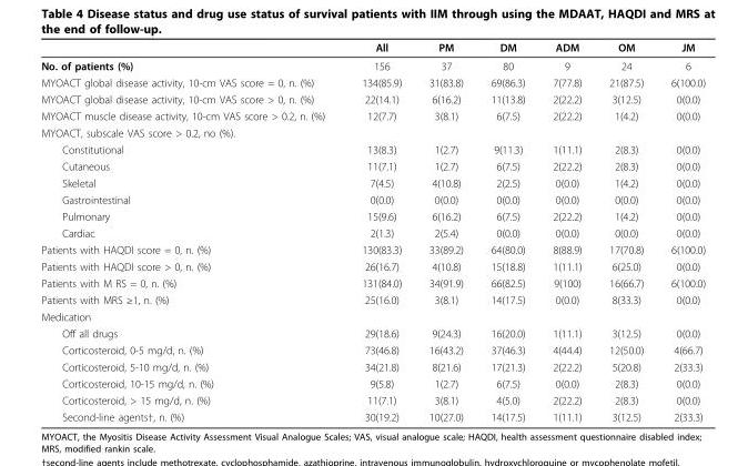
<table><thead><tr><td></td><td>All</td><td>PM</td><td>DM</td><td>ADM</td><td>OM</td><td>JM</td></tr></thead><tbody><tr><td>No. of patients (%)</td><td>156</td><td>37</td><td>80</td><td>9</td><td>24</td><td>6</td></tr><tr><td>MYOACT global disease activity, 10-cm VAS score = 0, n. (%)</td><td>134(85.9)</td><td>31(83.8)</td><td>69(86.3)</td><td>7(77.8)</td><td>21(87.5)</td><td>6(100.0)</td></tr><tr><td>MYOACT global disease activity, 10-cm VAS score &gt; 0, n. (%)</td><td>22(14.1)</td><td>6(16.2)</td><td>11(13.8)</td><td>2(22.2)</td><td>3(12.5)</td><td>0(0.0)</td></tr><tr><td>MYOACT muscle disease activity, 10-cm VAS score &gt; 0.2, n. (%)</td><td>12(7.7)</td><td>3(8.1)</td><td>6(7.5)</td><td>2(22.2)</td><td>1(4.2)</td><td>0(0.0)</td></tr><tr><td colspan="7">MYOACT, subscale VAS score &gt; 0.2, no (%).</td></tr><tr><td>Constitutional</td><td>13(8.3)</td><td>1(2.7)</td><td>9(11.3)</td><td>1(11.1)</td><td>2(8.3)</td><td>0(0.0)</td></tr><tr><td>Cutaneous</td><td>11(7.1)</td><td>1(2.7)</td><td>6(7.5)</td><td>2(22.2)</td><td>2(8.3)</td><td>0(0.0)</td></tr><tr><td>Skeletal</td><td>7(4.5)</td><td>4(10.8)</td><td>2(2.5)</td><td>0(0.0)</td><td>1(4.2)</td><td>0(0.0)</td></tr><tr><td>Gastrointestinal</td><td>0(0.0)</td><td>0(0.0)</td><td>0(0.0)</td><td>0(0.0)</td><td>0(0.0)</td><td>0(0.0)</td></tr><tr><td>Pulmonary</td><td>15(9.6)</td><td>6(16.2)</td><td>6(7.5)</td><td>2(22.2)</td><td>1(4.2)</td><td>0(0.0)</td></tr><tr><td>Cardiac</td><td>2(1.3)</td><td>2(5.4)</td><td>0(0.0)</td><td>0(0.0)</td><td>0(0.0)</td><td>0(0.0)</td></tr><tr><td>Patients with HAQDI score = 0, n. (%)</td><td>130(83.3)</td><td>33(89.2)</td><td>64(80.0)</td><td>8(88.9)</td><td>17(70.8)</td><td>6(100.0)</td></tr><tr><td>Patients with HAQDI score &gt; 0, n. (%)</td><td>26(16.7)</td><td>4(10.8)</td><td>15(18.8)</td><td>1(11.1)</td><td>6(25.0)</td><td>0(0.0)</td></tr><tr><td>Patients with M RS = 0, n. (%)</td><td>131(84.0)</td><td>34(91.9)</td><td>66(82.5)</td><td>9(100)</td><td>16(66.7)</td><td>6(100.0)</td></tr><tr><td>Patients with MRS ≥1, n. (%)</td><td>25(16.0)</td><td>3(8.1)</td><td>14(17.5)</td><td>0(0.0)</td><td>8(33.3)</td><td>0(0.0)</td></tr><tr><td colspan="7">Medication</td></tr><tr><td>Off all drugs</td><td>29(18.6)</td><td>9(24.3)</td><td>16(20.0)</td><td>1(11.1)</td><td>3(12.5)</td><td>0(0.0)</td></tr><tr><td>Corticosteroid, 0-5 mg/d, n. (%)</td><td>73(46.8)</td><td>16(43.2)</td><td>37(46.3)</td><td>4(44.4)</td><td>12(50.0)</td><td>4(66.7)</td></tr><tr><td>Corticosteroid, 5-10 mg/d, n. (%)</td><td>34(21.8)</td><td>8(21.6)</td><td>17(21.3)</td><td>2(22.2)</td><td>5(20.8)</td><td>2(33.3)</td></tr><tr><td>Corticosteroid, 10-15 mg/d, n. (%)</td><td>9(5.8)</td><td>1(2.7)</td><td>6(7.5)</td><td>0(0.0)</td><td>2(8.3)</td><td>0(0.0)</td></tr><tr><td>Corticosteroid, &gt; 15 mg/d, n. (%)</td><td>11(7.1)</td><td>3(8.1)</td><td>4(5.0)</td><td>2(22.2)</td><td>2(8.3)</td><td>0(0.0)</td></tr><tr><td>Second-line agents†, n. (%)</td><td>30(19.2)</td><td>10(27.0)</td><td>14(17.5)</td><td>1(11.1)</td><td>3(12.5)</td><td>2(33.3)</td></tr></tbody></table>